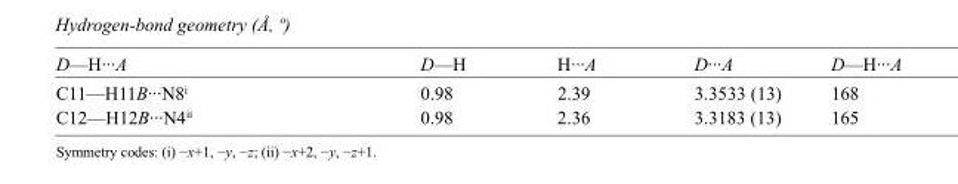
<table><tbody><tr><td>D—H···A</td><td>D—H</td><td>H···A</td><td>D···A</td><td>D—H···A</td></tr><tr><td>C11—H11B···N8<sup>i</sup></td><td>0.98</td><td>2.39</td><td>3.3533 (13)</td><td>168</td></tr><tr><td>C12—H12B···N4<sup>ii</sup></td><td>0.98</td><td>2.36</td><td>3.3183 (13)</td><td>165</td></tr></tbody></table>